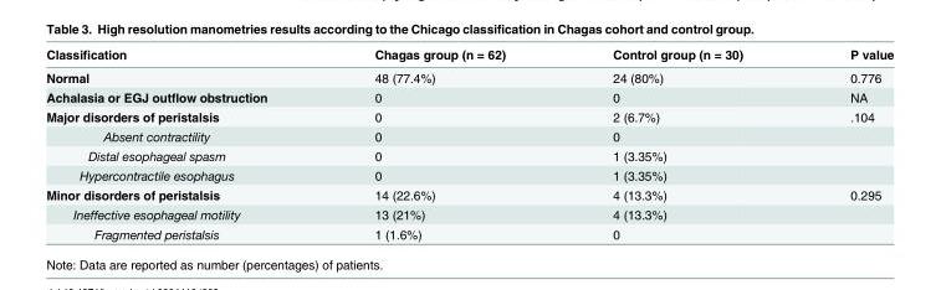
<table><thead><tr><td>Classification</td><td>Chagas group (n = 62)</td><td>Control group (n = 30)</td><td>P value</td></tr></thead><tbody><tr><td>Normal</td><td>48 (77.4%)</td><td>24 (80%)</td><td>0.776</td></tr><tr><td>Achalasia or EGJ outflow obstruction</td><td>0</td><td>0</td><td>NA</td></tr><tr><td>Major disorders of peristalsis</td><td>0</td><td>2 (6.7%)</td><td>.104</td></tr><tr><td>Absent contractility</td><td>0</td><td>0</td><td></td></tr><tr><td>Distal esophageal spasm</td><td>0</td><td>1 (3.35%)</td><td></td></tr><tr><td>Hypercontractile esophagus</td><td>0</td><td>1 (3.35%)</td><td></td></tr><tr><td>Minor disorders of peristalsis</td><td>14 (22.6%)</td><td>4 (13.3%)</td><td>0.295</td></tr><tr><td>Ineffective esophageal motility</td><td>13 (21%)</td><td>4 (13.3%)</td><td></td></tr><tr><td>Fragmented peristalsis</td><td>1 (1.6%)</td><td>0</td><td></td></tr></tbody></table>